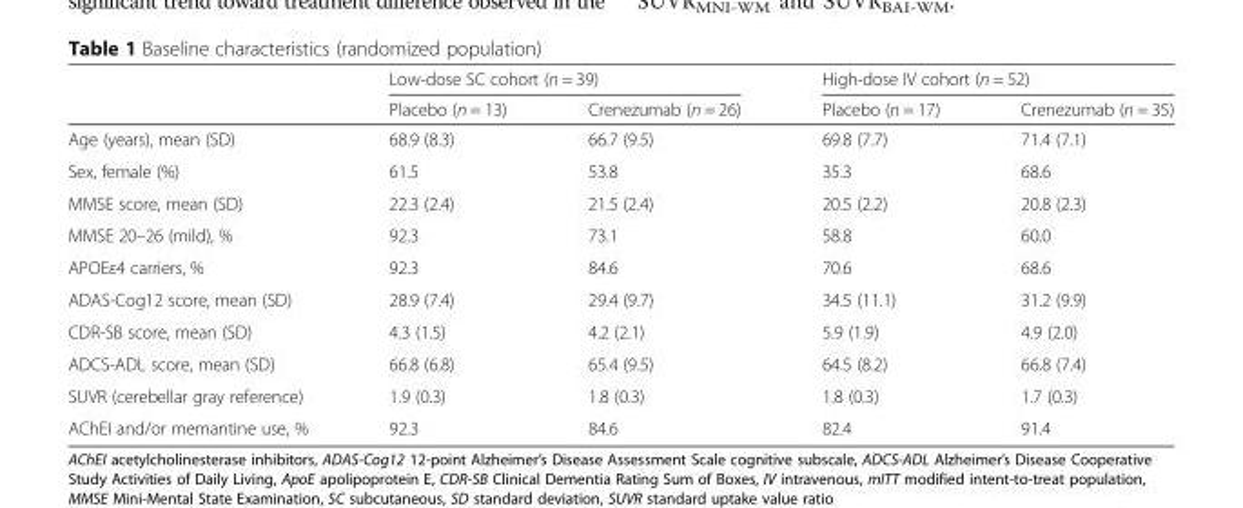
<table><thead><tr><td rowspan="2"></td><td colspan="2">Low-dose SC cohort (n = 39)</td><td colspan="2">High-dose IV cohort (n = 52)</td></tr><tr><td>Placebo (n = 13)</td><td>Crenezumab (n = 26)</td><td>Placebo (n = 17)</td><td>Crenezumab (n = 35)</td></tr></thead><tbody><tr><td>Age (years), mean (SD)</td><td>68.9 (8.3)</td><td>66.7 (9.5)</td><td>69.8 (7.7)</td><td>71.4 (7.1)</td></tr><tr><td>Sex, female (%)</td><td>61.5</td><td>53.8</td><td>35.3</td><td>68.6</td></tr><tr><td>MMSE score, mean (SD)</td><td>22.3 (2.4)</td><td>21.5 (2.4)</td><td>20.5 (2.2)</td><td>20.8 (2.3)</td></tr><tr><td>MMSE 20–26 (mild), %</td><td>92.3</td><td>73.1</td><td>58.8</td><td>60.0</td></tr><tr><td>APOEε4 carriers, %</td><td>92.3</td><td>84.6</td><td>70.6</td><td>68.6</td></tr><tr><td>ADAS-Cog12 score, mean (SD)</td><td>28.9 (7.4)</td><td>29.4 (9.7)</td><td>34.5 (11.1)</td><td>31.2 (9.9)</td></tr><tr><td>CDR-SB score, mean (SD)</td><td>4.3 (1.5)</td><td>4.2 (2.1)</td><td>5.9 (1.9)</td><td>4.9 (2.0)</td></tr><tr><td>ADCS-ADL score, mean (SD)</td><td>66.8 (6.8)</td><td>65.4 (9.5)</td><td>64.5 (8.2)</td><td>66.8 (7.4)</td></tr><tr><td>SUVR (cerebellar gray reference)</td><td>1.9 (0.3)</td><td>1.8 (0.3)</td><td>1.8 (0.3)</td><td>1.7 (0.3)</td></tr><tr><td>AChEI and/or memantine use, %</td><td>92.3</td><td>84.6</td><td>82.4</td><td>91.4</td></tr></tbody></table>